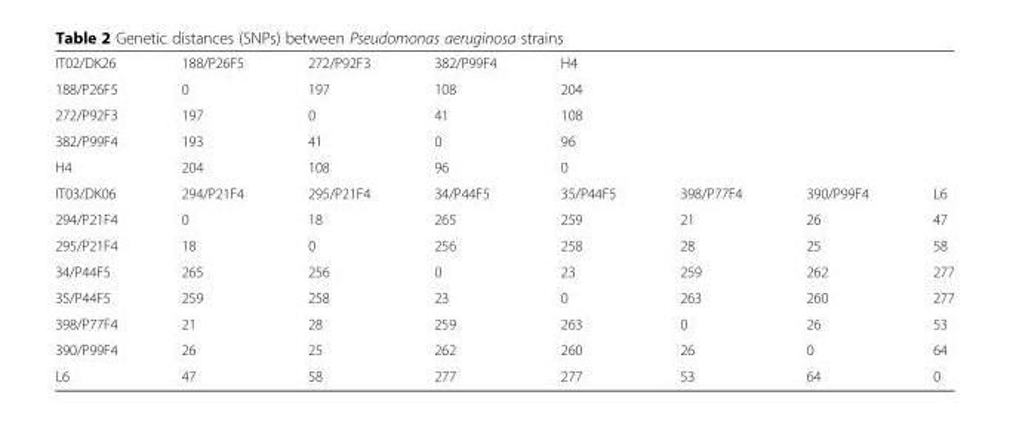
<table><tbody><tr><td>IT02/DK26</td><td>188/P26F5</td><td>272/P92F3</td><td>382/P99F4</td><td>H4</td><td></td><td></td><td></td></tr><tr><td>188/P26F5</td><td>0</td><td>197</td><td>108</td><td>204</td><td></td><td></td><td></td></tr><tr><td>272/P92F3</td><td>197</td><td>0</td><td>41</td><td>108</td><td></td><td></td><td></td></tr><tr><td>382/P99F4</td><td>193</td><td>41</td><td>0</td><td>96</td><td></td><td></td><td></td></tr><tr><td>H4</td><td>204</td><td>108</td><td>96</td><td>0</td><td></td><td></td><td></td></tr><tr><td>IT03/DK06</td><td>294/P21F4</td><td>295/P21F4</td><td>34/P44F5</td><td>35/P44F5</td><td>398/P77F4</td><td>390/P99F4</td><td>L6</td></tr><tr><td>294/P21F4</td><td>0</td><td>18</td><td>265</td><td>259</td><td>21</td><td>26</td><td>47</td></tr><tr><td>295/P21F4</td><td>18</td><td>0</td><td>256</td><td>258</td><td>28</td><td>25</td><td>58</td></tr><tr><td>34/P44F5</td><td>265</td><td>256</td><td>0</td><td>23</td><td>259</td><td>262</td><td>277</td></tr><tr><td>35/P44F5</td><td>259</td><td>258</td><td>23</td><td>0</td><td>263</td><td>260</td><td>277</td></tr><tr><td>398/P77F4</td><td>21</td><td>28</td><td>259</td><td>263</td><td>0</td><td>26</td><td>53</td></tr><tr><td>390/P99F4</td><td>26</td><td>25</td><td>262</td><td>260</td><td>26</td><td>0</td><td>64</td></tr><tr><td>L6</td><td>47</td><td>58</td><td>277</td><td>277</td><td>53</td><td>64</td><td>0</td></tr></tbody></table>